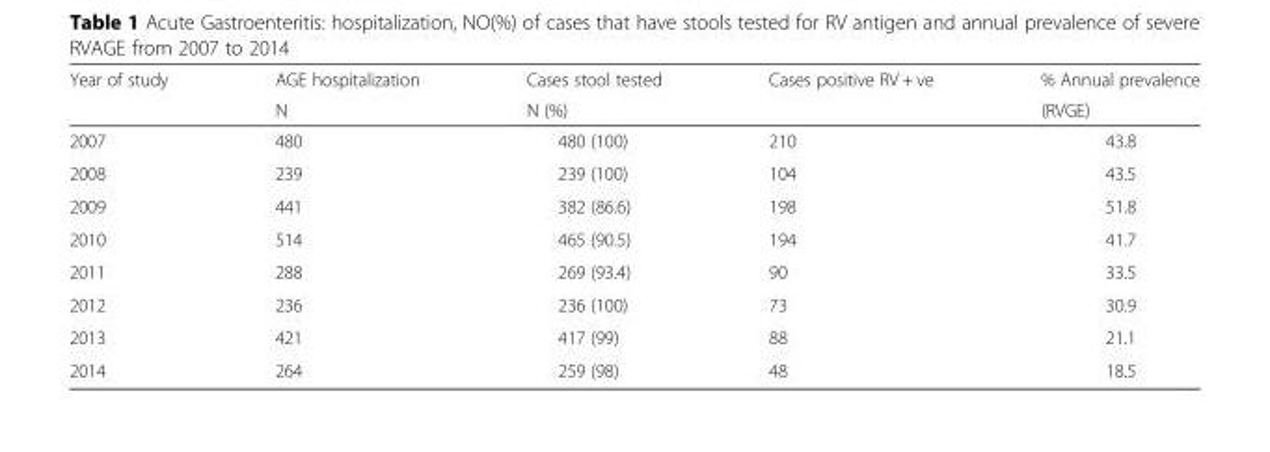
<table><thead><tr><td rowspan="2">Year of study</td><td rowspan="2">AGE hospitalization N</td><td rowspan="2">Cases stool tested N (%)</td><td rowspan="2">Cases positive RV + ve</td><td rowspan="2">% Annual prevalence (RVGE)</td></tr><tr></tr></thead><tbody><tr><td>2007</td><td>480</td><td>480 (100)</td><td>210</td><td>43.8</td></tr><tr><td>2008</td><td>239</td><td>239 (100)</td><td>104</td><td>43.5</td></tr><tr><td>2009</td><td>441</td><td>382 (86.6)</td><td>198</td><td>51.8</td></tr><tr><td>2010</td><td>514</td><td>465 (90.5)</td><td>194</td><td>41.7</td></tr><tr><td>2011</td><td>288</td><td>269 (93.4)</td><td>90</td><td>33.5</td></tr><tr><td>2012</td><td>236</td><td>236 (100)</td><td>73</td><td>30.9</td></tr><tr><td>2013</td><td>421</td><td>417 (99)</td><td>88</td><td>21.1</td></tr><tr><td>2014</td><td>264</td><td>259 (98)</td><td>48</td><td>18.5</td></tr></tbody></table>